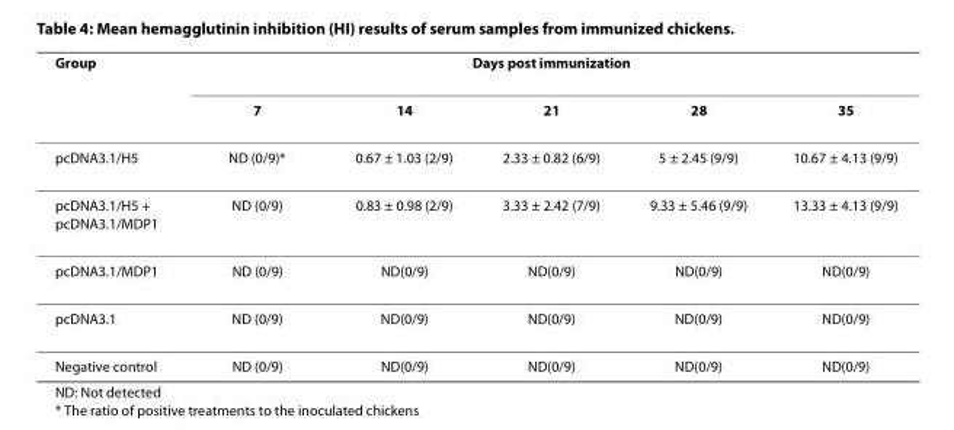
<table><thead><tr><td rowspan="2">Group</td><td colspan="5">Days post immunization</td></tr><tr><td>7</td><td>14</td><td>21</td><td>28</td><td>35</td></tr></thead><tbody><tr><td>pcDNA3.1/H5</td><td>ND (0/9)*</td><td>0.67 ± 1.03 (2/9)</td><td>2.33 ± 0.82 (6/9)</td><td>5 ± 2.45 (9/9)</td><td>10.67 ± 4.13 (9/9)</td></tr><tr><td>pcDNA3.1/H5 + pcDNA3.1/MDP1</td><td>ND (0/9)</td><td>0.83 ± 0.98 (2/9)</td><td>3.33 ± 2.42 (7/9)</td><td>9.33 ± 5.46 (9/9)</td><td>13.33 ± 4.13 (9/9)</td></tr><tr><td>pcDNA3.1/MDP1</td><td>ND (0/9)</td><td>ND(0/9)</td><td>ND(0/9)</td><td>ND(0/9)</td><td>ND(0/9)</td></tr><tr><td>pcDNA3.1</td><td>ND (0/9)</td><td>ND(0/9)</td><td>ND(0/9)</td><td>ND(0/9)</td><td>ND(0/9)</td></tr><tr><td>Negative control</td><td>ND (0/9)</td><td>ND(0/9)</td><td>ND(0/9)</td><td>ND(0/9)</td><td>ND(0/9)</td></tr></tbody></table>